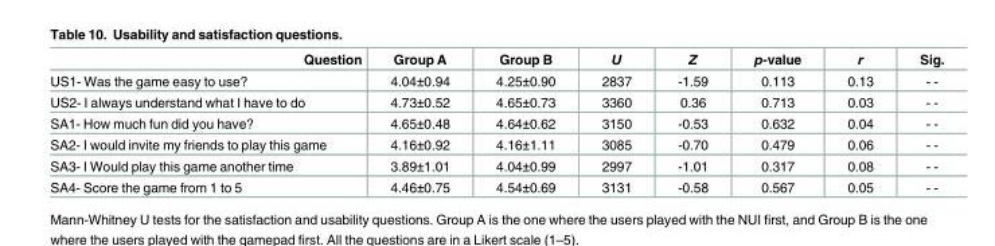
<table><thead><tr><td>Question</td><td>Group A</td><td>Group B</td><td>U</td><td>Z</td><td>p-value</td><td>r</td><td>Sig.</td></tr></thead><tbody><tr><td>US1- Was the game easy to use?</td><td>4.04±0.94</td><td>4.25±0.90</td><td>2837</td><td>-1.59</td><td>0.113</td><td>0.13</td><td>- -</td></tr><tr><td>US2- I always understand what I have to do</td><td>4.73±0.52</td><td>4.65±0.73</td><td>3360</td><td>0.36</td><td>0.713</td><td>0.03</td><td>- -</td></tr><tr><td>SA1- How much fun did you have?</td><td>4.65±0.48</td><td>4.64±0.62</td><td>3150</td><td>-0.53</td><td>0.632</td><td>0.04</td><td>- -</td></tr><tr><td>SA2- I would invite my friends to play this game</td><td>4.16±0.92</td><td>4.16±1.11</td><td>3085</td><td>-0.70</td><td>0.479</td><td>0.06</td><td>- -</td></tr><tr><td>SA3- I Would play this game another time</td><td>3.89±1.01</td><td>4.04±0.99</td><td>2997</td><td>-1.01</td><td>0.317</td><td>0.08</td><td>- -</td></tr><tr><td>SA4- Score the game from 1 to 5</td><td>4.46±0.75</td><td>4.54±0.69</td><td>3131</td><td>-0.58</td><td>0.567</td><td>0.05</td><td>- -</td></tr></tbody></table>